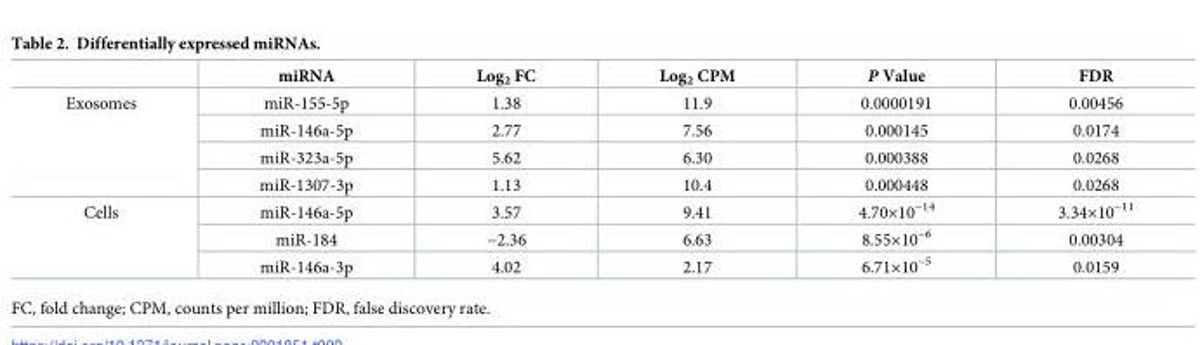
<table><thead><tr><td></td><td>miRNA</td><td>Log<sub>2</sub> FC</td><td>Log<sub>2</sub> CPM</td><td>P Value</td><td>FDR</td></tr></thead><tbody><tr><td rowspan="4">Exosomes</td><td>miR-155-5p</td><td>1.38</td><td>11.9</td><td>0.0000191</td><td>0.00456</td></tr><tr><td>miR-146a-5p</td><td>2.77</td><td>7.56</td><td>0.000145</td><td>0.0174</td></tr><tr><td>miR-323a-5p</td><td>5.62</td><td>6.30</td><td>0.000388</td><td>0.0268</td></tr><tr><td>miR-1307-3p</td><td>1.13</td><td>10.4</td><td>0.000448</td><td>0.0268</td></tr><tr><td rowspan="3">Cells</td><td>miR-146a-5p</td><td>3.57</td><td>9.41</td><td>4.70×10<sup>−14</sup></td><td>3.34×10<sup>−11</sup></td></tr><tr><td>miR-184</td><td>−2.36</td><td>6.63</td><td>8.55×10<sup>−6</sup></td><td>0.00304</td></tr><tr><td>miR-146a-3p</td><td>4.02</td><td>2.17</td><td>6.71×10<sup>−5</sup></td><td>0.0159</td></tr></tbody></table>